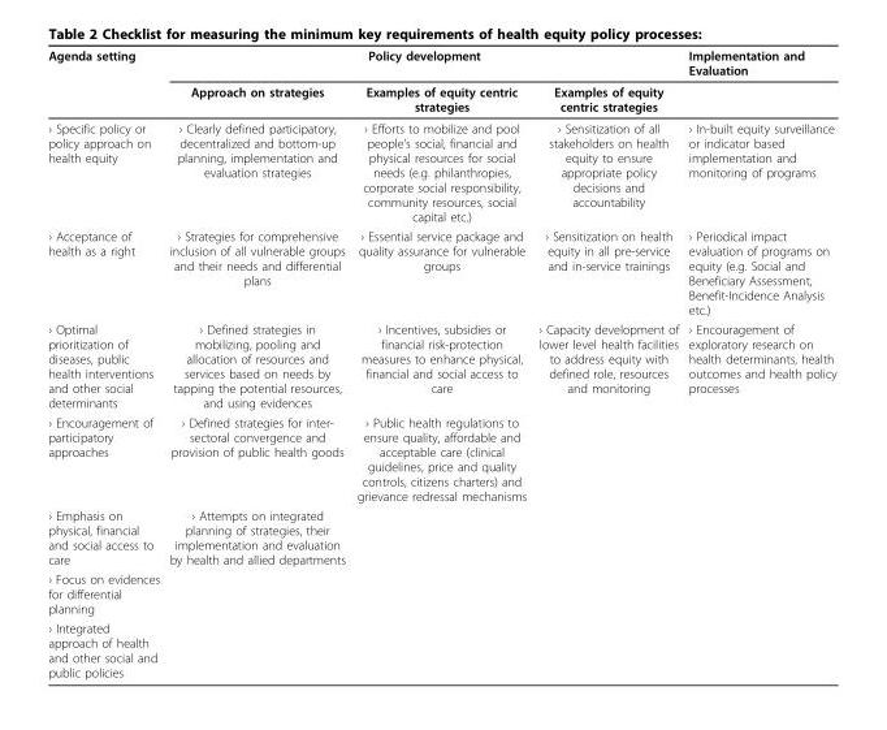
<table><thead><tr><td rowspan="2">Agenda setting</td><td colspan="3">Policy development</td><td rowspan="2">Implementation and Evaluation</td></tr><tr><td>Approach on strategies</td><td>Examples of equity centric strategies</td><td>Examples of equity centric strategies</td></tr></thead><tbody><tr><td>› Specific policy or policy approach on health equity</td><td>› Clearly defined participatory, decentralized and bottom-up planning, implementation and evaluation strategies</td><td>› Efforts to mobilize and pool people’s social, financial and physical resources for social needs (e.g. philanthropies, corporate social responsibility, community resources, social capital etc.)</td><td>› Sensitization of all stakeholders on health equity to ensure appropriate policy decisions and accountability</td><td>› In-built equity surveillance or indicator based implementation and monitoring of programs</td></tr><tr><td>› Acceptance of health as a right</td><td>› Strategies for comprehensive inclusion of all vulnerable groups and their needs and differential plans</td><td>› Essential service package and quality assurance for vulnerable groups</td><td>› Sensitization on health equity in all pre-service and in-service trainings</td><td>› Periodical impact evaluation of programs on equity (e.g. Social and Beneficiary Assessment, Benefit-Incidence Analysis etc.)</td></tr><tr><td>› Optimal prioritization of diseases, public health interventions and other social determinants</td><td>› Defined strategies in mobilizing, pooling and allocation of resources and services based on needs by tapping the potential resources, and using evidences</td><td>› Incentives, subsidies or financial risk-protection measures to enhance physical, financial and social access to care</td><td>› Capacity development of lower level health facilities to address equity with defined role, resources and monitoring</td><td>› Encouragement of exploratory research on health determinants, health outcomes and health policy processes</td></tr><tr><td>› Encouragement of participatory approaches</td><td>› Defined strategies for inter- sectoral convergence and provision of public health goods</td><td>› Public health regulations to ensure quality, affordable and acceptable care (clinical guidelines, price and quality controls, citizens charters) and grievance redressal mechanisms</td><td></td><td></td></tr><tr><td>› Emphasis on physical, financial and social access to care</td><td>› Attempts on integrated planning of strategies, their implementation and evaluation by health and allied departments</td><td></td><td></td><td></td></tr><tr><td colspan="5">› Focus on evidences for differential planning</td></tr><tr><td>› Integrated approach of health and other social and public policies</td><td></td><td></td><td></td><td></td></tr></tbody></table>